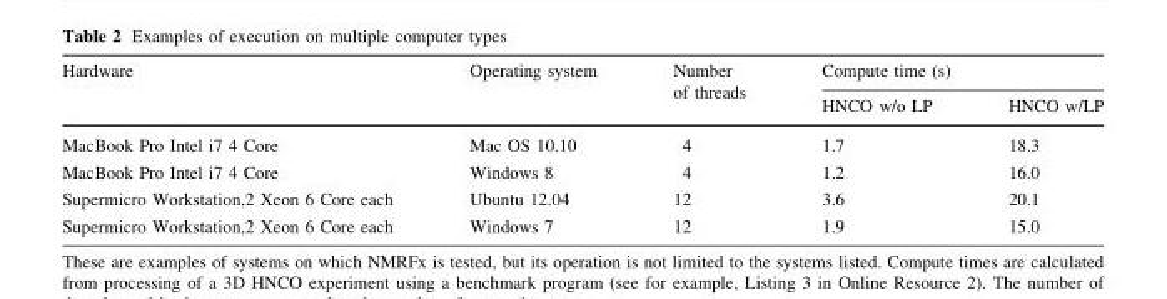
<table><thead><tr><td rowspan="2">Hardware</td><td rowspan="2">Operating system</td><td rowspan="2">Number of threads</td><td colspan="2">Compute time (s)</td></tr><tr><td>HNCO w/o LP</td><td>HNCO w/LP</td></tr></thead><tbody><tr><td>MacBook Pro Intel i7 4 Core</td><td>Mac OS 10.10</td><td>4</td><td>1.7</td><td>18.3</td></tr><tr><td>MacBook Pro Intel i7 4 Core</td><td>Windows 8</td><td>4</td><td>1.2</td><td>16.0</td></tr><tr><td>Supermicro Workstation,2 Xeon 6 Core each</td><td>Ubuntu 12.04</td><td>12</td><td>3.6</td><td>20.1</td></tr><tr><td>Supermicro Workstation,2 Xeon 6 Core each</td><td>Windows 7</td><td>12</td><td>1.9</td><td>15.0</td></tr></tbody></table>